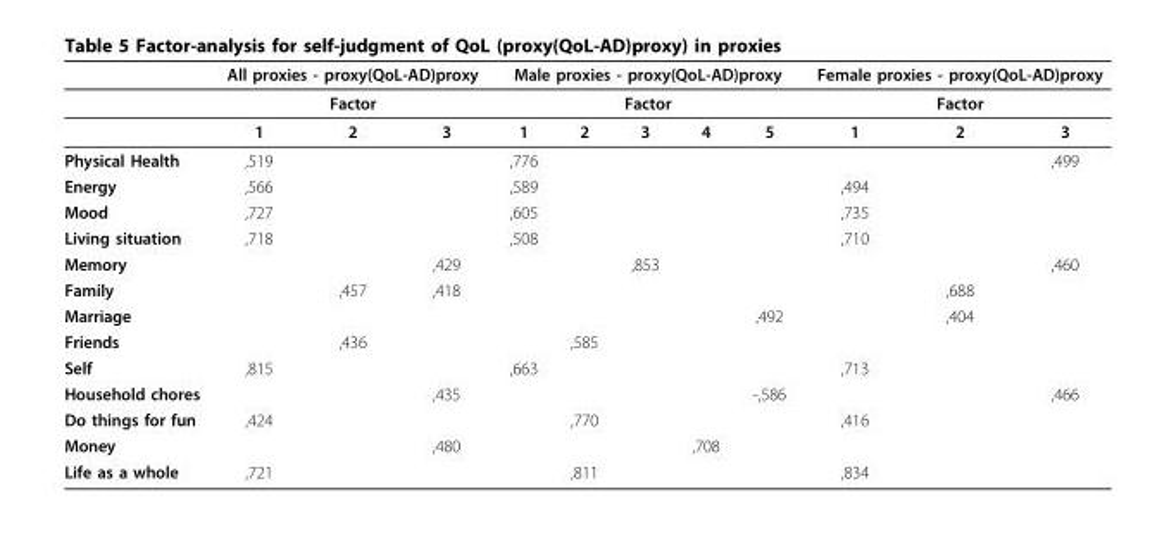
<table><thead><tr><td rowspan="3"></td><td rowspan="2" colspan="3">All proxies - proxy(QoL-AD)proxy Factor</td><td rowspan="2" colspan="5">Male proxies - proxy(QoL-AD)proxy Factor</td><td rowspan="2" colspan="3">Female proxies - proxy(QoL-AD)proxy Factor</td></tr><tr></tr><tr><td>1</td><td>2</td><td>3</td><td>1</td><td>2</td><td>3</td><td>4</td><td>5</td><td>1</td><td>2</td><td>3</td></tr></thead><tbody><tr><td>Physical Health</td><td>,519</td><td></td><td></td><td>,776</td><td></td><td></td><td></td><td></td><td></td><td></td><td>,499</td></tr><tr><td>Energy</td><td>,566</td><td></td><td></td><td>,589</td><td></td><td></td><td></td><td></td><td>,494</td><td></td><td></td></tr><tr><td>Mood</td><td>,727</td><td></td><td></td><td>,605</td><td></td><td></td><td></td><td></td><td>,735</td><td></td><td></td></tr><tr><td>Living situation</td><td>,718</td><td></td><td></td><td>,508</td><td></td><td></td><td></td><td></td><td>,710</td><td></td><td></td></tr><tr><td>Memory</td><td></td><td></td><td>,429</td><td></td><td></td><td>,853</td><td></td><td></td><td></td><td></td><td>,460</td></tr><tr><td>Family</td><td></td><td>,457</td><td>,418</td><td></td><td></td><td></td><td></td><td></td><td></td><td>,688</td><td></td></tr><tr><td>Marriage</td><td></td><td></td><td></td><td></td><td></td><td></td><td></td><td>,492</td><td></td><td>,404</td><td></td></tr><tr><td>Friends</td><td></td><td>,436</td><td></td><td></td><td>,585</td><td></td><td></td><td></td><td></td><td></td><td></td></tr><tr><td>Self</td><td>,815</td><td></td><td></td><td>,663</td><td></td><td></td><td></td><td></td><td>,713</td><td></td><td></td></tr><tr><td>Household chores</td><td></td><td></td><td>,435</td><td></td><td></td><td></td><td></td><td>-,586</td><td></td><td></td><td>,466</td></tr><tr><td>Do things for fun</td><td>,424</td><td></td><td></td><td></td><td>,770</td><td></td><td></td><td></td><td>,416</td><td></td><td></td></tr><tr><td>Money</td><td></td><td></td><td>,480</td><td></td><td></td><td></td><td>,708</td><td></td><td></td><td></td><td></td></tr><tr><td>Life as a whole</td><td>,721</td><td></td><td></td><td></td><td>,811</td><td></td><td></td><td></td><td>,834</td><td></td><td></td></tr></tbody></table>